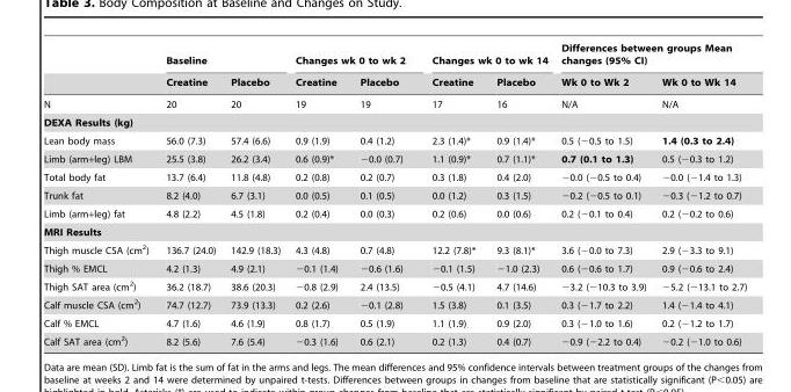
<table><thead><tr><td rowspan="2"></td><td colspan="2">Baseline</td><td colspan="2">Changes wk 0 to wk 2</td><td colspan="2">Changes wk 0 to wk 14</td><td colspan="2">Differences between groups Mean changes (95% CI)</td></tr><tr><td>Creatine</td><td>Placebo</td><td>Creatine</td><td>Placebo</td><td>Creatine</td><td>Placebo</td><td>Wk 0 to Wk 2</td><td>Wk 0 to Wk 14</td></tr></thead><tbody><tr><td>N</td><td>20</td><td>20</td><td>19</td><td>19</td><td>17</td><td>16</td><td>N/A</td><td>N/A</td></tr><tr><td colspan="9">DEXA Results (kg)</td></tr><tr><td>Lean body mass</td><td>56.0 (7.3)</td><td>57.4 (6.6)</td><td>0.9 (1.9)</td><td>0.4 (1.2)</td><td>2.3 (1.4)*</td><td>0.9 (1.4)*</td><td>0.5 (−0.5 to 1.5)</td><td>1.4 (0.3 to 2.4)</td></tr><tr><td>Limb (arm+leg) LBM</td><td>25.5 (3.8)</td><td>26.2 (3.4)</td><td>0.6 (0.9)*</td><td>−0.0 (0.7)</td><td>1.1 (0.9)*</td><td>0.7 (1.1)*</td><td>0.7 (0.1 to 1.3)</td><td>0.5 (−0.3 to 1.2)</td></tr><tr><td>Total body fat</td><td>13.7 (6.4)</td><td>11.8 (4.8)</td><td>0.2 (0.8)</td><td>0.2 (0.7)</td><td>0.3 (1.8)</td><td>0.4 (2.0)</td><td>−0.0 (−0.5 to 0.4)</td><td>−0.0 (−1.4 to 1.3)</td></tr><tr><td>Trunk fat</td><td>8.2 (4.0)</td><td>6.7 (3.1)</td><td>0.0 (0.5)</td><td>0.1 (0.5)</td><td>0.0 (1.2)</td><td>0.3 (1.5)</td><td>−0.2 (−0.5 to 0.1)</td><td>−0.3 (−1.2 to 0.7)</td></tr><tr><td>Limb (arm+leg) fat</td><td>4.8 (2.2)</td><td>4.5 (1.8)</td><td>0.2 (0.4)</td><td>0.0 (0.3)</td><td>0.2 (0.6)</td><td>0.0 (0.6)</td><td>0.2 (−0.1 to 0.4)</td><td>0.2 (−0.2 to 0.6)</td></tr><tr><td colspan="9">MRI Results</td></tr><tr><td>Thigh muscle CSA (cm<sup>2</sup>)</td><td>136.7 (24.0)</td><td>142.9 (18.3)</td><td>4.3 (4.8)</td><td>0.7 (4.8)</td><td>12.2 (7.8)*</td><td>9.3 (8.1)*</td><td>3.6 (−0.0 to 7.3)</td><td>2.9 (−3.3 to 9.1)</td></tr><tr><td>Thigh % EMCL</td><td>4.2 (1.3)</td><td>4.9 (2.1)</td><td>−0.1 (1.4)</td><td>−0.6 (1.6)</td><td>−0.1 (1.5)</td><td>−1.0 (2.3)</td><td>0.6 (−0.6 to 1.7)</td><td>0.9 (−0.6 to 2.4)</td></tr><tr><td>Thigh SAT area (cm<sup>2</sup>)</td><td>36.2 (18.7)</td><td>38.6 (20.3)</td><td>−0.8 (2.9)</td><td>2.4 (13.5)</td><td>−0.5 (4.1)</td><td>4.7 (14.6)</td><td>−3.2 (−10.3 to 3.9)</td><td>−5.2 (−13.1 to 2.7)</td></tr><tr><td>Calf muscle CSA (cm<sup>2</sup>)</td><td>74.7 (12.7)</td><td>73.9 (13.3)</td><td>0.2 (2.6)</td><td>−0.1 (2.8)</td><td>1.5 (3.8)</td><td>0.1 (3.5)</td><td>0.3 (−1.7 to 2.2)</td><td>1.4 (−1.4 to 4.1)</td></tr><tr><td>Calf % EMCL</td><td>4.7 (1.6)</td><td>4.6 (1.9)</td><td>0.8 (1.7)</td><td>0.5 (1.9)</td><td>1.1 (1.9)</td><td>0.9 (2.0)</td><td>0.3 (−1.0 to 1.6)</td><td>0.2 (−1.2 to 1.7)</td></tr><tr><td>Calf SAT area (cm<sup>2</sup>)</td><td>8.2 (5.6)</td><td>7.6 (5.4)</td><td>−0.3 (1.6)</td><td>0.6 (2.1)</td><td>0.2 (1.3)</td><td>0.4 (0.7)</td><td>−0.9 (−2.2 to 0.4)</td><td>−0.2 (−1.0 to 0.6)</td></tr></tbody></table>